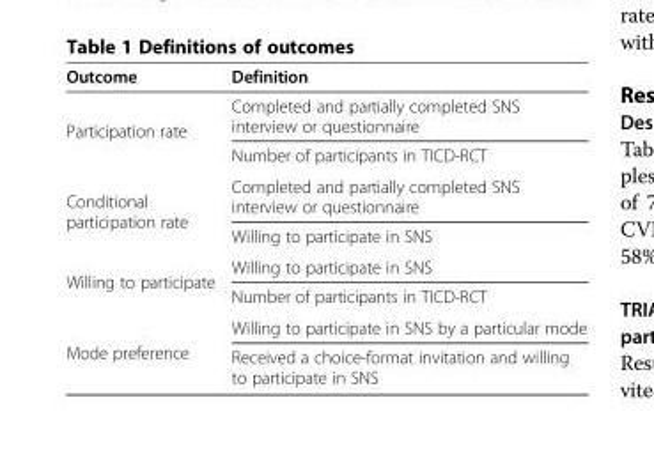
<table><thead><tr><td>Outcome</td><td>Definition</td></tr></thead><tbody><tr><td rowspan="2">Participation rate</td><td>Completed and partially completed SNS interview or questionnaire</td></tr><tr><td>Number of participants in TICD-RCT</td></tr><tr><td rowspan="2">Conditional participation rate</td><td>Completed and partially completed SNS interview or questionnaire</td></tr><tr><td>Willing to participate in SNS</td></tr><tr><td rowspan="2">Willing to participate</td><td>Willing to participate in SNS</td></tr><tr><td>Number of participants in TICD-RCT</td></tr><tr><td rowspan="2">Mode preference</td><td>Willing to participate in SNS by a particular mode</td></tr><tr><td>Received a choice-format invitation and willing to participate in SNS</td></tr></tbody></table>